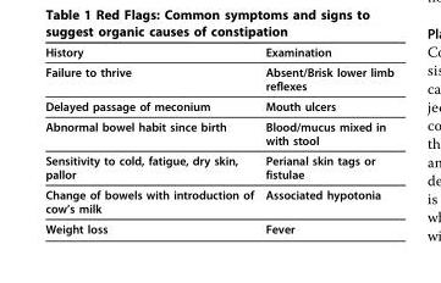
<table><thead><tr><td>History</td><td>Examination</td></tr></thead><tbody><tr><td>Failure to thrive</td><td>Absent/Brisk lower limb reflexes</td></tr><tr><td>Delayed passage of meconium</td><td>Mouth ulcers</td></tr><tr><td>Abnormal bowel habit since birth</td><td>Blood/mucus mixed in with stool</td></tr><tr><td>Sensitivity to cold, fatigue, dry skin, pallor</td><td>Perianal skin tags or fistulae</td></tr><tr><td>Change of bowels with introduction of cow’s milk</td><td>Associated hypotonia</td></tr><tr><td>Weight loss</td><td>Fever</td></tr></tbody></table>